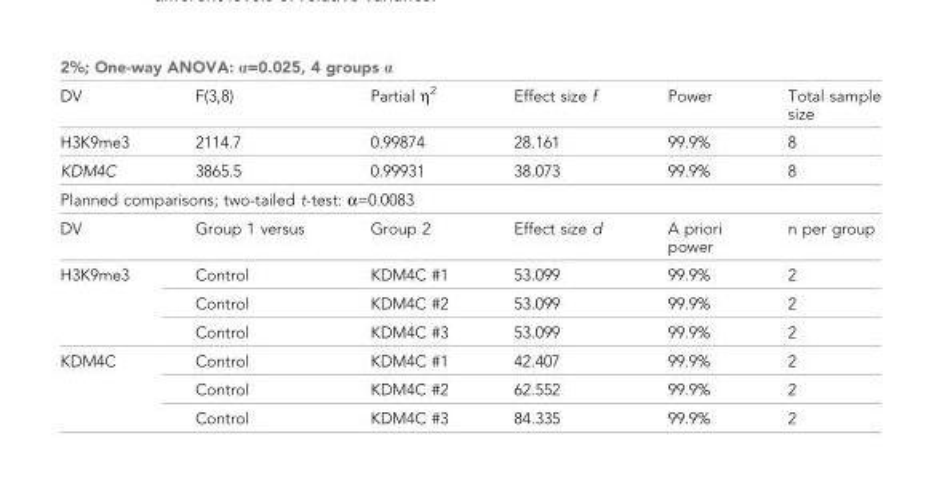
<table><thead><tr><td colspan="6">2%; One-way ANOVA: α=0.025, 4 groups α</td></tr><tr><td>DV</td><td>F(3,8)</td><td>Partial η<sup>2</sup></td><td>Effect size f</td><td>Power</td><td>Total sample size</td></tr></thead><tbody><tr><td>H3K9me3</td><td>2114.7</td><td>0.99874</td><td>28.161</td><td>99.9%</td><td>8</td></tr><tr><td>KDM4C</td><td>3865.5</td><td>0.99931</td><td>38.073</td><td>99.9%</td><td>8</td></tr><tr><td colspan="6">Planned comparisons; two-tailed t-test: α=0.0083</td></tr><tr><td>DV</td><td>Group 1 versus</td><td>Group 2</td><td>Effect size d</td><td>A priori power</td><td>n per group</td></tr><tr><td rowspan="3">H3K9me3</td><td>Control</td><td>KDM4C #1</td><td>53.099</td><td>99.9%</td><td>2</td></tr><tr><td>Control</td><td>KDM4C #2</td><td>53.099</td><td>99.9%</td><td>2</td></tr><tr><td>Control</td><td>KDM4C #3</td><td>53.099</td><td>99.9%</td><td>2</td></tr><tr><td rowspan="3">KDM4C</td><td>Control</td><td>KDM4C #1</td><td>42.407</td><td>99.9%</td><td>2</td></tr><tr><td>Control</td><td>KDM4C #2</td><td>62.552</td><td>99.9%</td><td>2</td></tr><tr><td>Control</td><td>KDM4C #3</td><td>84.335</td><td>99.9%</td><td>2</td></tr></tbody></table>